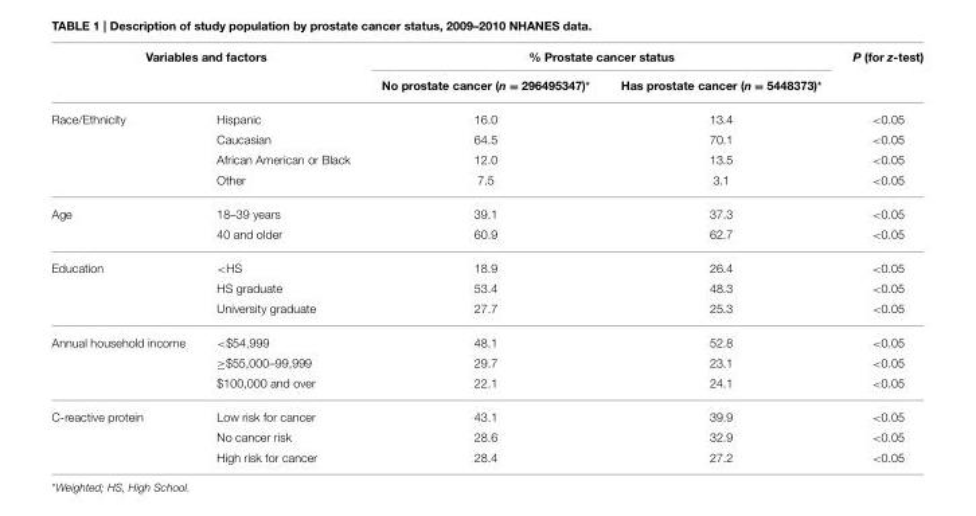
<table><thead><tr><td colspan="2">Variables and factors</td><td colspan="2">% Prostate cancer status</td><td rowspan="2">P (for z-test)</td></tr><tr><td></td><td></td><td>No prostate cancer (n = 296495347)*</td><td>Has prostate cancer (n = 5448373)*</td></tr></thead><tbody><tr><td rowspan="4">Race/Ethnicity</td><td>Hispanic</td><td>16.0</td><td>13.4</td><td>&lt;0.05</td></tr><tr><td>Caucasian</td><td>64.5</td><td>70.1</td><td>&lt;0.05</td></tr><tr><td>African American or Black</td><td>12.0</td><td>13.5</td><td>&lt;0.05</td></tr><tr><td>Other</td><td>7.5</td><td>3.1</td><td>&lt;0.05</td></tr><tr><td rowspan="2">Age</td><td>18–39 years</td><td>39.1</td><td>37.3</td><td>&lt;0.05</td></tr><tr><td>40 and older</td><td>60.9</td><td>62.7</td><td>&lt;0.05</td></tr><tr><td rowspan="3">Education</td><td>&lt;HS</td><td>18.9</td><td>26.4</td><td>&lt;0.05</td></tr><tr><td>HS graduate</td><td>53.4</td><td>48.3</td><td>&lt;0.05</td></tr><tr><td>University graduate</td><td>27.7</td><td>25.3</td><td>&lt;0.05</td></tr><tr><td rowspan="3">Annual household income</td><td>&lt;$54,999</td><td>48.1</td><td>52.8</td><td>&lt;0.05</td></tr><tr><td>≥$55,000–99,999</td><td>29.7</td><td>23.1</td><td>&lt;0.05</td></tr><tr><td>$100,000 and over</td><td>22.1</td><td>24.1</td><td>&lt;0.05</td></tr><tr><td rowspan="3">C-reactive protein</td><td>Low risk for cancer</td><td>43.1</td><td>39.9</td><td>&lt;0.05</td></tr><tr><td>No cancer risk</td><td>28.6</td><td>32.9</td><td>&lt;0.05</td></tr><tr><td>High risk for cancer</td><td>28.4</td><td>27.2</td><td>&lt;0.05</td></tr></tbody></table>